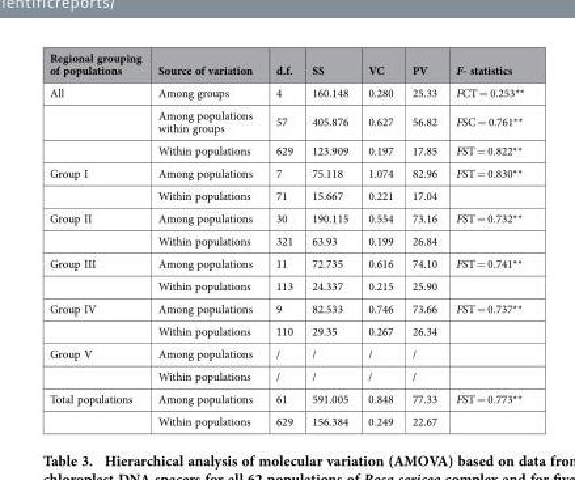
<table><thead><tr><td>Regional grouping of populations</td><td>Source of variation</td><td>d.f.</td><td>SS</td><td>VC</td><td>PV</td><td>F- statistics</td></tr></thead><tbody><tr><td rowspan="3">All</td><td>Among groups</td><td>4</td><td>160.148</td><td>0.280</td><td>25.33</td><td>FCT = 0.253**</td></tr><tr><td>Among populations within groups</td><td>57</td><td>405.876</td><td>0.627</td><td>56.82</td><td>FSC = 0.761**</td></tr><tr><td>Within populations</td><td>629</td><td>123.909</td><td>0.197</td><td>17.85</td><td>FST = 0.822**</td></tr><tr><td rowspan="2">Group I</td><td>Among populations</td><td>7</td><td>75.118</td><td>1.074</td><td>82.96</td><td>FST = 0.830**</td></tr><tr><td>Within populations</td><td>71</td><td>15.667</td><td>0.221</td><td>17.04</td><td></td></tr><tr><td rowspan="2">Group II</td><td>Among populations</td><td>30</td><td>190.115</td><td>0.554</td><td>73.16</td><td>FST = 0.732**</td></tr><tr><td>Within populations</td><td>321</td><td>63.93</td><td>0.199</td><td>26.84</td><td></td></tr><tr><td rowspan="2">Group III</td><td>Among populations</td><td>11</td><td>72.735</td><td>0.616</td><td>74.10</td><td>FST = 0.741**</td></tr><tr><td>Within populations</td><td>113</td><td>24.337</td><td>0.215</td><td>25.90</td><td></td></tr><tr><td rowspan="2">Group IV</td><td>Among populations</td><td>9</td><td>82.533</td><td>0.746</td><td>73.66</td><td>FST = 0.737**</td></tr><tr><td>Within populations</td><td>110</td><td>29.35</td><td>0.267</td><td>26.34</td><td></td></tr><tr><td rowspan="2">Group V</td><td>Among populations</td><td>/</td><td>/</td><td>/</td><td>/</td><td></td></tr><tr><td>Within populations</td><td>/</td><td>/</td><td>/</td><td>/</td><td></td></tr><tr><td rowspan="2">Total populations</td><td>Among populations</td><td>61</td><td>591.005</td><td>0.848</td><td>77.33</td><td>FST = 0.773**</td></tr><tr><td>Within populations</td><td>629</td><td>156.384</td><td>0.249</td><td>22.67</td><td></td></tr></tbody></table>